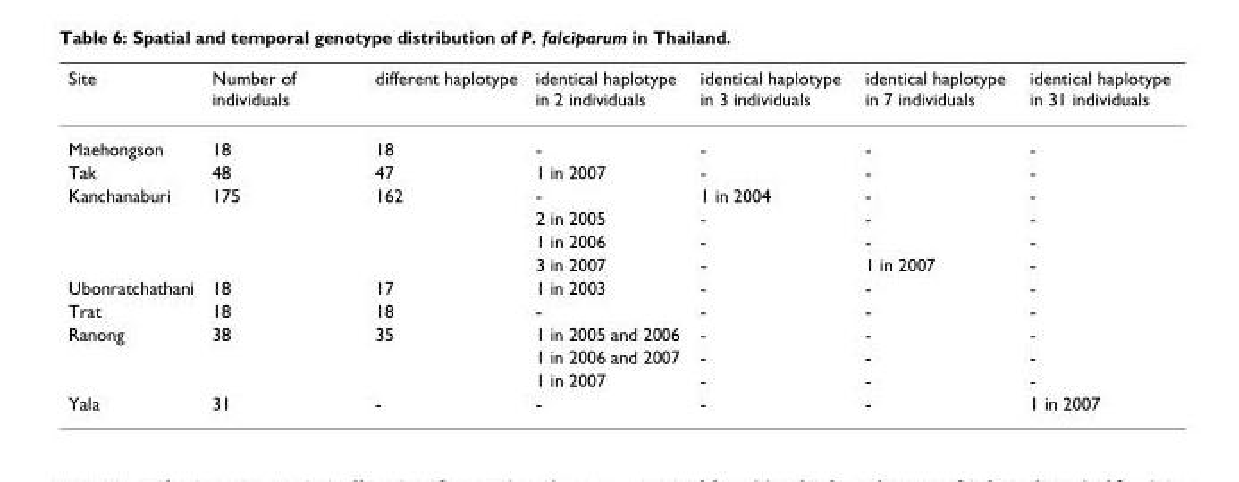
<table><thead><tr><td>Site</td><td>Number of individuals</td><td>different haplotype</td><td>identical haplotype in 2 individuals</td><td>identical haplotype in 3 individuals</td><td>identical haplotype in 7 individuals</td><td>identical haplotype in 31 individuals</td></tr></thead><tbody><tr><td>Maehongson</td><td>18</td><td>18</td><td>-</td><td>-</td><td>-</td><td>-</td></tr><tr><td>Tak</td><td>48</td><td>47</td><td>1 in 2007</td><td>-</td><td>-</td><td>-</td></tr><tr><td rowspan="4">Kanchanaburi</td><td>175</td><td>162</td><td>-</td><td>1 in 2004</td><td>-</td><td>-</td></tr><tr><td></td><td></td><td>2 in 2005</td><td>-</td><td>-</td><td>-</td></tr><tr><td></td><td></td><td>1 in 2006</td><td>-</td><td>-</td><td>-</td></tr><tr><td></td><td></td><td>3 in 2007</td><td>-</td><td>1 in 2007</td><td>-</td></tr><tr><td>Ubonratchathani</td><td>18</td><td>17</td><td>1 in 2003</td><td>-</td><td>-</td><td>-</td></tr><tr><td>Trat</td><td>18</td><td>18</td><td>-</td><td>-</td><td>-</td><td>-</td></tr><tr><td rowspan="3">Ranong</td><td>38</td><td>35</td><td>1 in 2005 and 2006</td><td>-</td><td>-</td><td>-</td></tr><tr><td></td><td></td><td>1 in 2006 and 2007</td><td>-</td><td>-</td><td>-</td></tr><tr><td></td><td></td><td>1 in 2007</td><td>-</td><td>-</td><td>-</td></tr><tr><td>Yala</td><td>31</td><td>-</td><td>-</td><td>-</td><td>-</td><td>1 in 2007</td></tr></tbody></table>